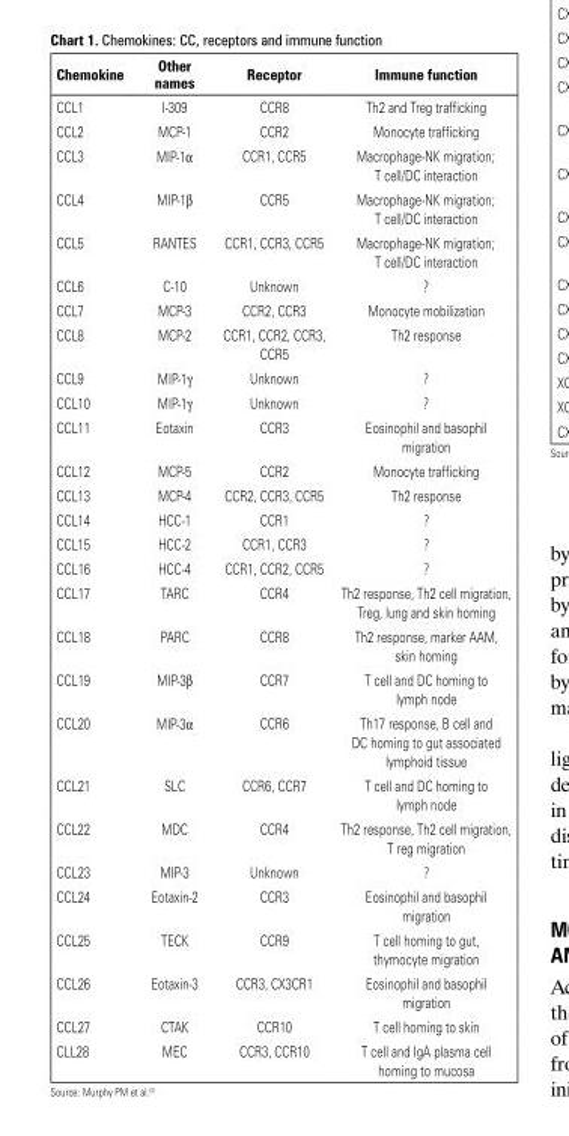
<table><thead><tr><td>chemokine</td><td>Other names</td><td>Receptor</td><td>immune function</td></tr></thead><tbody><tr><td>CCL1</td><td>I-309</td><td>CCR8</td><td>Th2 and Treg trafficking</td></tr><tr><td>CCL2</td><td>MCP-1</td><td>CCR2</td><td>Monocyte trafficking</td></tr><tr><td>CCL3</td><td>MIP-1α</td><td>CCR1, CCR5</td><td>Macrophage-NK migration; T cell/DC interaction</td></tr><tr><td>CCL4</td><td>MIP-1β</td><td>CCR5</td><td>Macrophage-NK migration; T cell/DC interaction</td></tr><tr><td>CCL5</td><td>RANTES</td><td>CCR1, CCR3, CCR5</td><td>Macrophage-NK migration; T cell/DC interaction</td></tr><tr><td>CCL6</td><td>C-10</td><td>Unknown</td><td>?</td></tr><tr><td>CCL7</td><td>MCP-3</td><td>CCR2, CCR3</td><td>Monocyte mobilization</td></tr><tr><td>CCL8</td><td>MCP-2</td><td>CCR1, CCR2, CCR3, CCR5</td><td>Th2 response</td></tr><tr><td>CCL9</td><td>MIP-1γ</td><td>Unknown</td><td>?</td></tr><tr><td>CCL10</td><td>MIP-1γ</td><td>Unknown</td><td>?</td></tr><tr><td>CCL11</td><td>Eotaxin</td><td>CCR3</td><td>Eosinophil and basophil migration</td></tr><tr><td>CCL12</td><td>MCP-5</td><td>CCR2</td><td>Monocyte trafficking</td></tr><tr><td>CCL13</td><td>MCP-4</td><td>CCR2, CCR3, CCR5</td><td>Th2 response</td></tr><tr><td>CCL14</td><td>HCC-1</td><td>CCR1</td><td>?</td></tr><tr><td>CCL15</td><td>HCC-2</td><td>CCR1, CCR3</td><td>?</td></tr><tr><td>CCL16</td><td>HCC-4</td><td>CCR1, CCR2, CCR5</td><td>?</td></tr><tr><td>CCL17</td><td>TARC</td><td>CCR4</td><td>Th2 response, Th2 cell migration, Treg, lung and skin homing</td></tr><tr><td>CCL18</td><td>PARC</td><td>CCR8</td><td>Th2 response, marker AAM, skin homing</td></tr><tr><td>CCL19</td><td>MIP-3β</td><td>CCR7</td><td>T cell and DC homing to lymph node</td></tr><tr><td>CCL20</td><td>MIP-3α</td><td>CCR6</td><td>Th17 response, B cell and DC homing to gut associated lymphoid tissue</td></tr><tr><td>CCL21</td><td>SLC</td><td>CCR6, CCR7</td><td>T cell and DC homing to lymph node</td></tr><tr><td>CCL22</td><td>MDC</td><td>CCR4</td><td>Th2 response, Th2 cell migration, T reg migration</td></tr><tr><td>CCL23</td><td>MIP-3</td><td>Unknown</td><td>?</td></tr><tr><td>CCL24</td><td>Eotaxin-2</td><td>CCR3</td><td>Eosinophil and basophil migration</td></tr><tr><td>CCL25</td><td>TECK</td><td>CCR9</td><td>T cell homing to gut, thymocyte migration</td></tr><tr><td>CCL26</td><td>Eotaxin-3</td><td>CCR3, CX3CR1</td><td>Eosinophil and basophil migration</td></tr><tr><td>CCL27</td><td>CTAK</td><td>CCR10</td><td>T cell homing to skin</td></tr><tr><td>CLL28</td><td>MEC</td><td>CCR3, CCR10</td><td>T cell and IgA plasma cell homing to mucosa</td></tr></tbody></table>